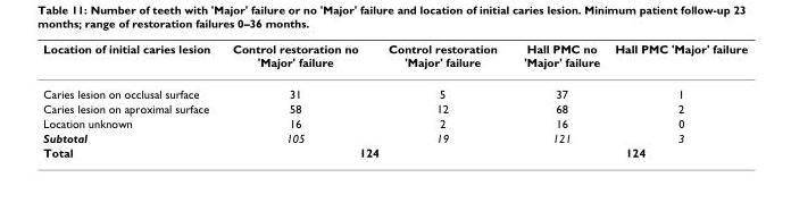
<table><thead><tr><td>Location of initial caries lesion</td><td>Control restoration no &#x27;Major&#x27; failure</td><td>Control restoration &#x27;Major&#x27; failure</td><td>Hall PMC no &#x27;Major&#x27; failure</td><td>Hall PMC &#x27;Major&#x27; failure</td></tr></thead><tbody><tr><td>Caries lesion on occlusal surface</td><td>31</td><td>5</td><td>37</td><td>1</td></tr><tr><td>Caries lesion on aproximal surface</td><td>58</td><td>12</td><td>68</td><td>2</td></tr><tr><td>Location unknown</td><td>16</td><td>2</td><td>16</td><td>0</td></tr><tr><td>Subtotal</td><td>105</td><td>19</td><td>121</td><td>3</td></tr><tr><td>Total</td><td colspan="2">124</td><td colspan="2">124</td></tr></tbody></table>